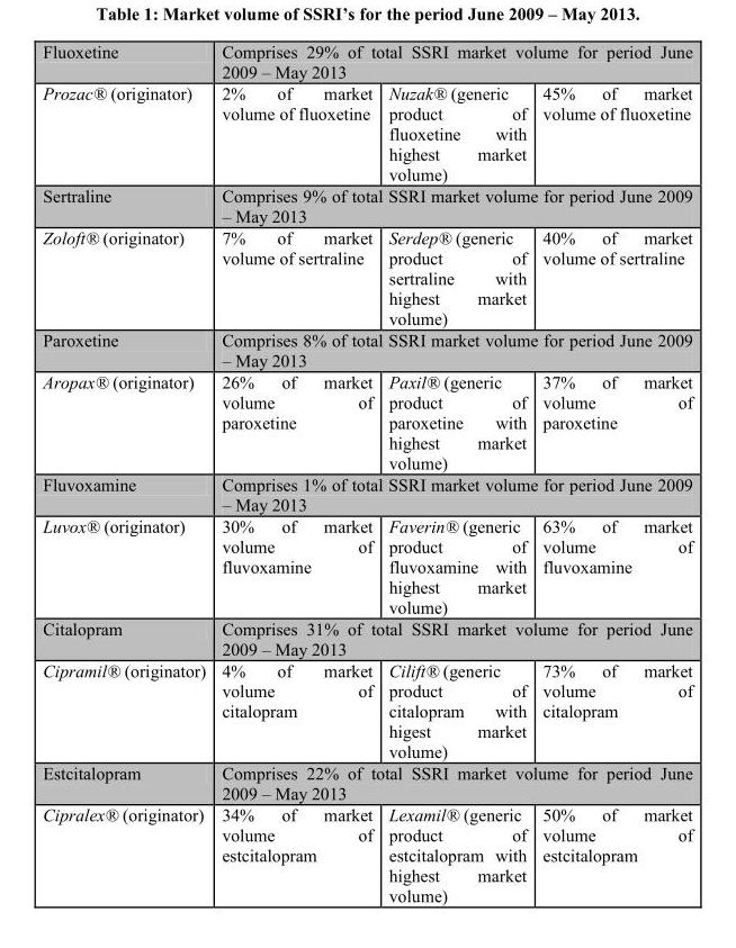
<table><tbody><tr><td>Fluoxetine</td><td colspan="3">Comprises 29% of total SSRI market volume for period June 2009 – May 2013</td></tr><tr><td>Prozac® (originator)</td><td>2% of market volume of fluoxetine</td><td>Nuzak® (generic product of fluoxetine with highest market volume)</td><td>45% of market volume of fluoxetine</td></tr><tr><td>Sertraline</td><td colspan="3">Comprises 9% of total SSRI market volume for period June 2009 – May 2013</td></tr><tr><td>Zoloft® (originator)</td><td>7% of market volume of sertraline</td><td>Serdep® (generic product of sertraline with highest market volume)</td><td>40% of market volume of sertraline</td></tr><tr><td>Paroxetine</td><td colspan="3">Comprises 8% of total SSRI market volume for period June 2009 – May 2013</td></tr><tr><td>Aropax® (originator)</td><td>26% of market volume of paroxetine</td><td>Paxil® (generic product of paroxetine with highest market volume)</td><td>37% of market volume of paroxetine</td></tr><tr><td>Fluvoxamine</td><td colspan="3">Comprises 1% of total SSRI market volume for period June 2009 – May 2013</td></tr><tr><td>Luvox® (originator)</td><td>30% of market volume of fluvoxamine</td><td>Faverin® (generic product of fluvoxamine with highest market volume)</td><td>63% of market volume of fluvoxamine</td></tr><tr><td>Citalopram</td><td colspan="3">Comprises 31% of total SSRI market volume for period June 2009 – May 2013</td></tr><tr><td>Cipramil® (originator)</td><td>4% of market volume of citalopram</td><td>Cilift® (generic product of citalopram with higest market volume)</td><td>73% of market volume of citalopram</td></tr><tr><td>Estcitalopram</td><td colspan="3">Comprises 22% of total SSRI market volume for period June 2009 – May 2013</td></tr><tr><td>Cipralex® (originator)</td><td>34% of market volume of estcitalopram</td><td>Lexamil® (generic product of estcitalopram with highest market volume)</td><td>50% of market volume of estcitalopram</td></tr></tbody></table>